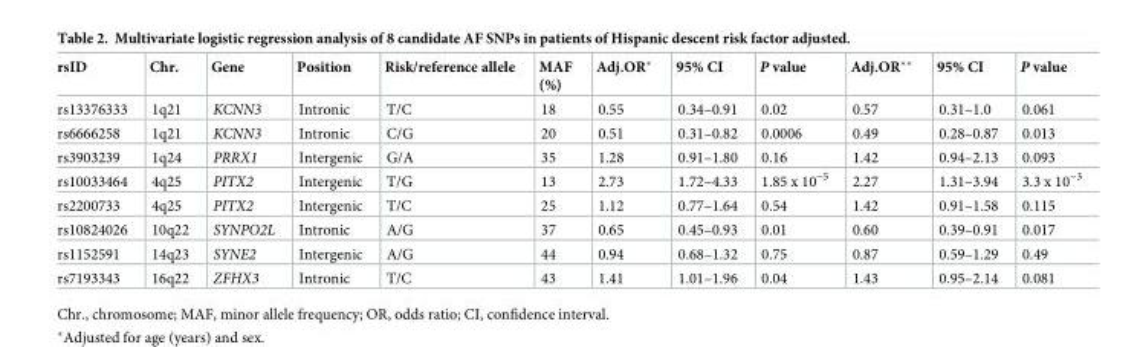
<table><thead><tr><td>rsID</td><td>Chr.</td><td>Gene</td><td>Position</td><td>Risk/reference allele</td><td>MAF (%)</td><td>Adj.OR*</td><td>95% CI</td><td>P value</td><td>Adj.OR**</td><td>95% CI</td><td>P value</td></tr></thead><tbody><tr><td>rs13376333</td><td>1q21</td><td>KCNN3</td><td>Intronic</td><td>T/C</td><td>18</td><td>0.55</td><td>0.34–0.91</td><td>0.02</td><td>0.57</td><td>0.31–1.0</td><td>0.061</td></tr><tr><td>rs6666258</td><td>1q21</td><td>KCNN3</td><td>Intronic</td><td>C/G</td><td>20</td><td>0.51</td><td>0.31–0.82</td><td>0.0006</td><td>0.49</td><td>0.28–0.87</td><td>0.013</td></tr><tr><td>rs3903239</td><td>1q24</td><td>PRRX1</td><td>Intergenic</td><td>G/A</td><td>35</td><td>1.28</td><td>0.91–1.80</td><td>0.16</td><td>1.42</td><td>0.94–2.13</td><td>0.093</td></tr><tr><td>rs10033464</td><td>4q25</td><td>PITX2</td><td>Intergenic</td><td>T/G</td><td>13</td><td>2.73</td><td>1.72–4.33</td><td>1.85 x 10<sup>−5</sup></td><td>2.27</td><td>1.31–3.94</td><td>3.3 x 10<sup>−3</sup></td></tr><tr><td>rs2200733</td><td>4q25</td><td>PITX2</td><td>Intergenic</td><td>T/C</td><td>25</td><td>1.12</td><td>0.77–1.64</td><td>0.54</td><td>1.42</td><td>0.91–1.58</td><td>0.115</td></tr><tr><td>rs10824026</td><td>10q22</td><td>SYNPO2L</td><td>Intronic</td><td>A/G</td><td>37</td><td>0.65</td><td>0.45–0.93</td><td>0.01</td><td>0.60</td><td>0.39–0.91</td><td>0.017</td></tr><tr><td>rs1152591</td><td>14q23</td><td>SYNE2</td><td>Intergenic</td><td>A/G</td><td>44</td><td>0.94</td><td>0.68–1.32</td><td>0.75</td><td>0.87</td><td>0.59–1.29</td><td>0.49</td></tr><tr><td>rs7193343</td><td>16q22</td><td>ZFHX3</td><td>Intronic</td><td>T/C</td><td>43</td><td>1.41</td><td>1.01–1.96</td><td>0.04</td><td>1.43</td><td>0.95–2.14</td><td>0.081</td></tr></tbody></table>